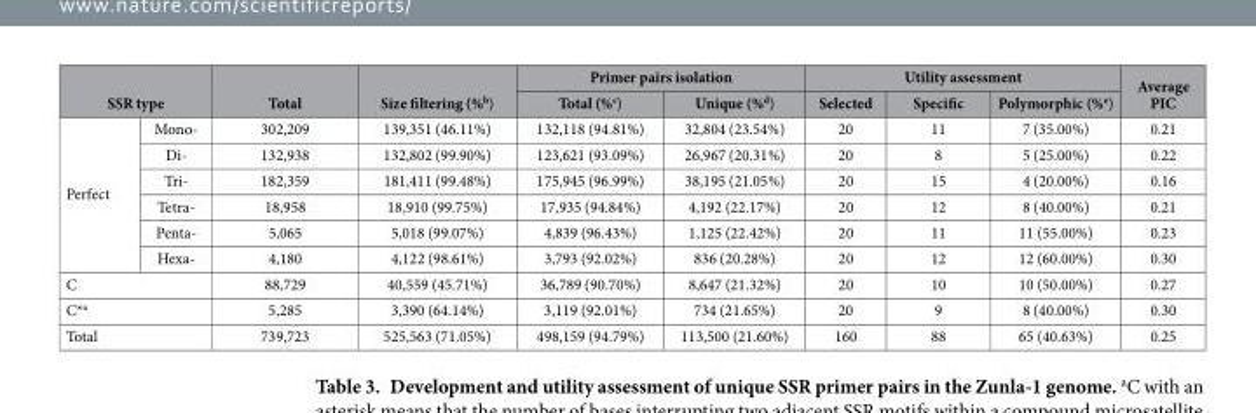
<table><thead><tr><td></td><td></td><td rowspan="2">Total</td><td rowspan="2">Size filtering (%<sup>b</sup>)</td><td colspan="2">Primer pairs isolation</td><td colspan="3">Utility assessment</td><td rowspan="2">Average PIC</td></tr><tr><td colspan="2">SSR type</td><td>Total (%<sup>c</sup>)</td><td>Unique (%<sup>d</sup>)</td><td>Selected</td><td>Specific</td><td>Polymorphic (%<sup>e</sup>)</td></tr></thead><tbody><tr><td rowspan="6">Perfect</td><td>Mono-</td><td>302,209</td><td>139,351 (46.11%)</td><td>132,118 (94.81%)</td><td>32,804 (23.54%)</td><td>20</td><td>11</td><td>7 (35.00%)</td><td>0.21</td></tr><tr><td>Di-</td><td>132,938</td><td>132,802 (99.90%)</td><td>123,621 (93.09%)</td><td>26,967 (20.31%)</td><td>20</td><td>8</td><td>5 (25.00%)</td><td>0.22</td></tr><tr><td>Tri-</td><td>182,359</td><td>181,411 (99.48%)</td><td>175,945 (96.99%)</td><td>38,195 (21.05%)</td><td>20</td><td>15</td><td>4 (20.00%)</td><td>0.16</td></tr><tr><td>Tetra-</td><td>18,958</td><td>18,910 (99.75%)</td><td>17,935 (94.84%)</td><td>4,192 (22.17%)</td><td>20</td><td>12</td><td>8 (40.00%)</td><td>0.21</td></tr><tr><td>Penta-</td><td>5,065</td><td>5,018 (99.07%)</td><td>4,839 (96.43%)</td><td>1,125 (22.42%)</td><td>20</td><td>11</td><td>11 (55.00%)</td><td>0.23</td></tr><tr><td>Hexa-</td><td>4,180</td><td>4,122 (98.61%)</td><td>3,793 (92.02%)</td><td>836 (20.28%)</td><td>20</td><td>12</td><td>12 (60.00%)</td><td>0.30</td></tr><tr><td colspan="2">C</td><td>88,729</td><td>40,559 (45.71%)</td><td>36,789 (90.70%)</td><td>8,647 (21.32%)</td><td>20</td><td>10</td><td>10 (50.00%)</td><td>0.27</td></tr><tr><td colspan="2">C*<sup>a</sup></td><td>5,285</td><td>3,390 (64.14%)</td><td>3,119 (92.01%)</td><td>734 (21.65%)</td><td>20</td><td>9</td><td>8 (40.00%)</td><td>0.30</td></tr><tr><td colspan="2">Total</td><td>739,723</td><td>525,563 (71.05%)</td><td>498,159 (94.79%)</td><td>113,500 (21.60%)</td><td>160</td><td>88</td><td>65 (40.63%)</td><td>0.25</td></tr></tbody></table>